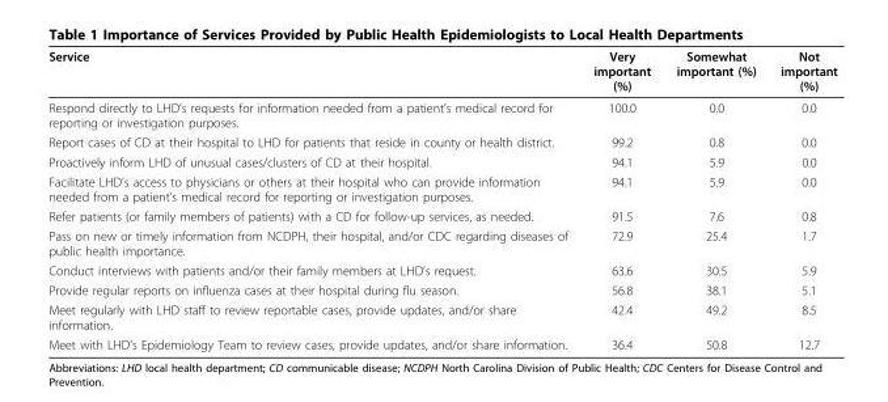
<table><thead><tr><td>Service</td><td>Very important (%)</td><td>Somewhat important (%)</td><td>Not important (%)</td></tr></thead><tbody><tr><td>Respond directly to LHD’s requests for information needed from a patient’s medical record for reporting or investigation purposes.</td><td>100.0</td><td>0.0</td><td>0.0</td></tr><tr><td>Report cases of CD at their hospital to LHD for patients that reside in county or health district.</td><td>99.2</td><td>0.8</td><td>0.0</td></tr><tr><td>Proactively inform LHD of unusual cases/clusters of CD at their hospital.</td><td>94.1</td><td>5.9</td><td>0.0</td></tr><tr><td>Facilitate LHD’s access to physicians or others at their hospital who can provide information needed from a patient’s medical record for reporting or investigation purposes.</td><td>94.1</td><td>5.9</td><td>0.0</td></tr><tr><td>Refer patients (or family members of patients) with a CD for follow-up services, as needed.</td><td>91.5</td><td>7.6</td><td>0.8</td></tr><tr><td>Pass on new or timely information from NCDPH, their hospital, and/or CDC regarding diseases of public health importance.</td><td>72.9</td><td>25.4</td><td>1.7</td></tr><tr><td>Conduct interviews with patients and/or their family members at LHD’s request.</td><td>63.6</td><td>30.5</td><td>5.9</td></tr><tr><td>Provide regular reports on influenza cases at their hospital during flu season.</td><td>56.8</td><td>38.1</td><td>5.1</td></tr><tr><td>Meet regularly with LHD staff to review reportable cases, provide updates, and/or share information.</td><td>42.4</td><td>49.2</td><td>8.5</td></tr><tr><td>Meet with LHD’s Epidemiology Team to review cases, provide updates, and/or share information.</td><td>36.4</td><td>50.8</td><td>12.7</td></tr></tbody></table>